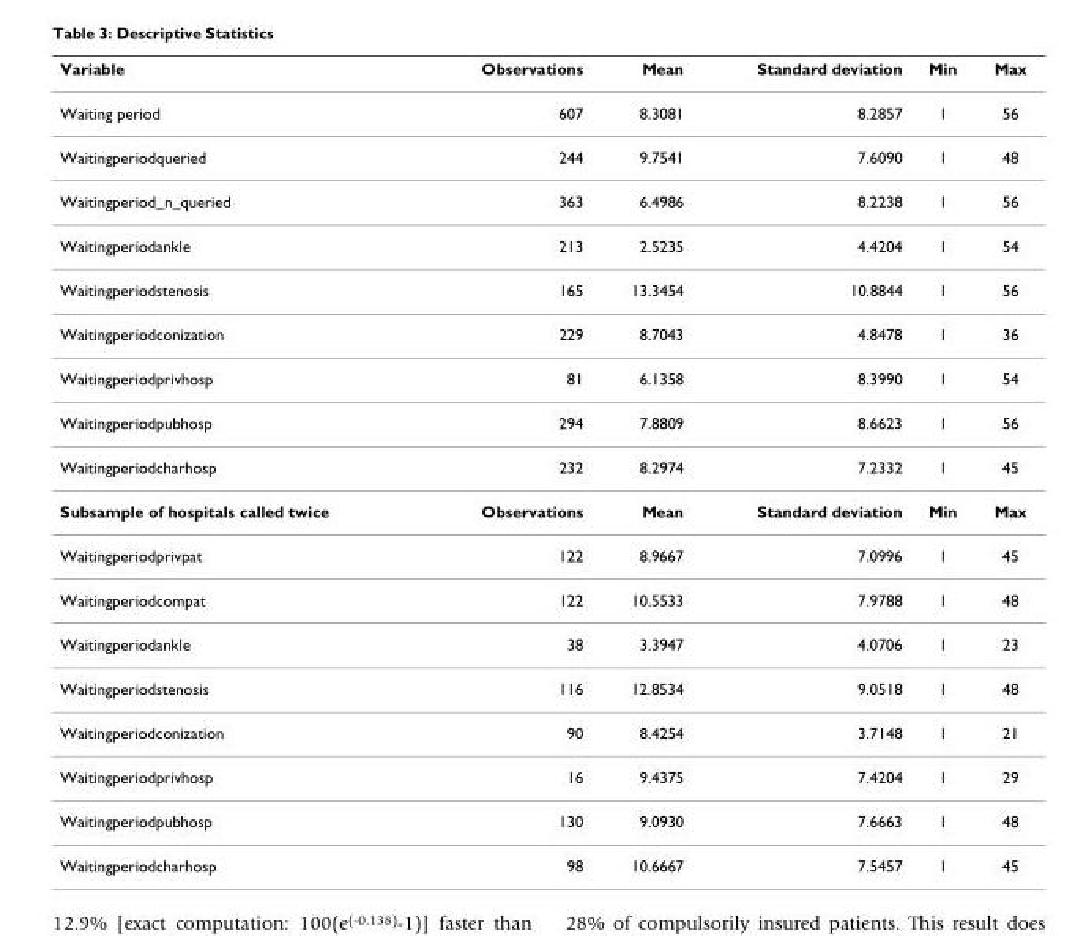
<table><thead><tr><td>Variable</td><td>Observations</td><td>Mean</td><td>Standard deviation</td><td>Min</td><td>Max</td></tr></thead><tbody><tr><td>Waiting period</td><td>607</td><td>8.3081</td><td>8.2857</td><td>1</td><td>56</td></tr><tr><td>Waitingperiodqueried</td><td>244</td><td>9.7541</td><td>7.6090</td><td>1</td><td>48</td></tr><tr><td>Waitingperiod_n_queried</td><td>363</td><td>6.4986</td><td>8.2238</td><td>1</td><td>56</td></tr><tr><td>Waitingperiodankle</td><td>213</td><td>2.5235</td><td>4.4204</td><td>1</td><td>54</td></tr><tr><td>Waitingperiodstenosis</td><td>165</td><td>13.3454</td><td>10.8844</td><td>1</td><td>56</td></tr><tr><td>Waitingperiodconization</td><td>229</td><td>8.7043</td><td>4.8478</td><td>1</td><td>36</td></tr><tr><td>Waitingperiodprivhosp</td><td>81</td><td>6.1358</td><td>8.3990</td><td>1</td><td>54</td></tr><tr><td>Waitingperiodpubhosp</td><td>294</td><td>7.8809</td><td>8.6623</td><td>1</td><td>56</td></tr><tr><td>Waitingperiodcharhosp</td><td>232</td><td>8.2974</td><td>7.2332</td><td>1</td><td>45</td></tr><tr><td>Subsample of hospitals called twice</td><td>Observations</td><td>Mean</td><td>Standard deviation</td><td>Min</td><td>Max</td></tr><tr><td>Waitingperiodprivpat</td><td>122</td><td>8.9667</td><td>7.0996</td><td>1</td><td>45</td></tr><tr><td>Waitingperiodcompat</td><td>122</td><td>10.5533</td><td>7.9788</td><td>1</td><td>48</td></tr><tr><td>Waitingperiodankle</td><td>38</td><td>3.3947</td><td>4.0706</td><td>1</td><td>23</td></tr><tr><td>Waitingperiodstenosis</td><td>116</td><td>12.8534</td><td>9.0518</td><td>1</td><td>48</td></tr><tr><td>Waitingperiodconization</td><td>90</td><td>8.4254</td><td>3.7148</td><td>1</td><td>21</td></tr><tr><td>Waitingperiodprivhosp</td><td>16</td><td>9.4375</td><td>7.4204</td><td>1</td><td>29</td></tr><tr><td>Waitingperiodpubhosp</td><td>130</td><td>9.0930</td><td>7.6663</td><td>1</td><td>48</td></tr><tr><td>Waitingperiodcharhosp</td><td>98</td><td>10.6667</td><td>7.5457</td><td>1</td><td>45</td></tr></tbody></table>